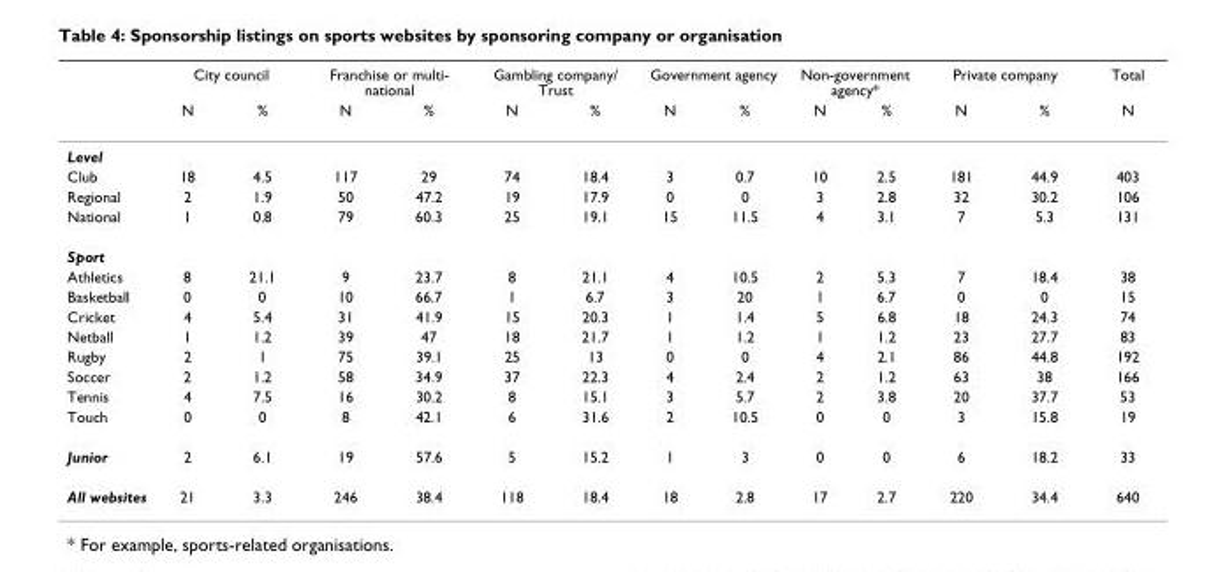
<table><thead><tr><td rowspan="2"></td><td colspan="2">City council</td><td colspan="2">Franchise or multi- national</td><td colspan="2">Gambling company/ Trust</td><td colspan="2">Government agency</td><td colspan="2">Non-government agency*</td><td colspan="2">Private company</td><td rowspan="2">Total N</td></tr><tr><td>N</td><td>%</td><td>N</td><td>%</td><td>N</td><td>%</td><td>N</td><td>%</td><td>N</td><td>%</td><td>N</td><td>%</td></tr></thead><tbody><tr><td colspan="14">Level</td></tr><tr><td>Club</td><td>18</td><td>4.5</td><td>117</td><td>29</td><td>74</td><td>18.4</td><td>3</td><td>0.7</td><td>10</td><td>2.5</td><td>181</td><td>44.9</td><td>403</td></tr><tr><td>Regional</td><td>2</td><td>1.9</td><td>50</td><td>47.2</td><td>19</td><td>17.9</td><td>0</td><td>0</td><td>3</td><td>2.8</td><td>32</td><td>30.2</td><td>106</td></tr><tr><td>National</td><td>1</td><td>0.8</td><td>79</td><td>60.3</td><td>25</td><td>19.1</td><td>15</td><td>11.5</td><td>4</td><td>3.1</td><td>7</td><td>5.3</td><td>131</td></tr><tr><td colspan="14">Sport</td></tr><tr><td>Athletics</td><td>8</td><td>21.1</td><td>9</td><td>23.7</td><td>8</td><td>21.1</td><td>4</td><td>10.5</td><td>2</td><td>5.3</td><td>7</td><td>18.4</td><td>38</td></tr><tr><td>Basketball</td><td>0</td><td>0</td><td>10</td><td>66.7</td><td>1</td><td>6.7</td><td>3</td><td>20</td><td>1</td><td>6.7</td><td>0</td><td>0</td><td>15</td></tr><tr><td>Cricket</td><td>4</td><td>5.4</td><td>31</td><td>41.9</td><td>15</td><td>20.3</td><td>1</td><td>1.4</td><td>5</td><td>6.8</td><td>18</td><td>24.3</td><td>74</td></tr><tr><td>Netball</td><td>1</td><td>1.2</td><td>39</td><td>47</td><td>18</td><td>21.7</td><td>1</td><td>1.2</td><td>1</td><td>1.2</td><td>23</td><td>27.7</td><td>83</td></tr><tr><td>Rugby</td><td>2</td><td>1</td><td>75</td><td>39.1</td><td>25</td><td>13</td><td>0</td><td>0</td><td>4</td><td>2.1</td><td>86</td><td>44.8</td><td>192</td></tr><tr><td>Soccer</td><td>2</td><td>1.2</td><td>58</td><td>34.9</td><td>37</td><td>22.3</td><td>4</td><td>2.4</td><td>2</td><td>1.2</td><td>63</td><td>38</td><td>166</td></tr><tr><td>Tennis</td><td>4</td><td>7.5</td><td>16</td><td>30.2</td><td>8</td><td>15.1</td><td>3</td><td>5.7</td><td>2</td><td>3.8</td><td>20</td><td>37.7</td><td>53</td></tr><tr><td>Touch</td><td>0</td><td>0</td><td>8</td><td>42.1</td><td>6</td><td>31.6</td><td>2</td><td>10.5</td><td>0</td><td>0</td><td>3</td><td>15.8</td><td>19</td></tr><tr><td>Junior</td><td>2</td><td>6.1</td><td>19</td><td>57.6</td><td>5</td><td>15.2</td><td>1</td><td>3</td><td>0</td><td>0</td><td>6</td><td>18.2</td><td>33</td></tr><tr><td>All websites</td><td>21</td><td>3.3</td><td>246</td><td>38.4</td><td>118</td><td>18.4</td><td>18</td><td>2.8</td><td>17</td><td>2.7</td><td>220</td><td>34.4</td><td>640</td></tr></tbody></table>